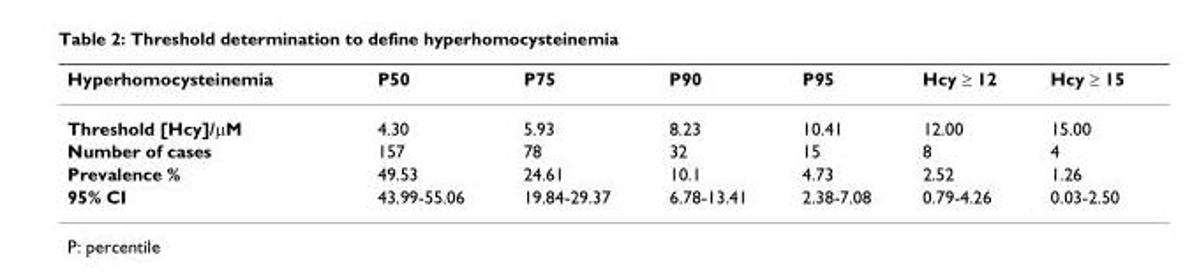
<table><thead><tr><td>Hyperhomocysteinemia</td><td>P50</td><td>P75</td><td>P90</td><td>P95</td><td>Hcy ≥ 12</td><td>Hcy ≥ 15</td></tr></thead><tbody><tr><td>Threshold [Hcy]/μM</td><td>4.30</td><td>5.93</td><td>8.23</td><td>10.41</td><td>12.00</td><td>15.00</td></tr><tr><td>Number of cases</td><td>157</td><td>78</td><td>32</td><td>15</td><td>8</td><td>4</td></tr><tr><td>Prevalence %</td><td>49.53</td><td>24.61</td><td>10.1</td><td>4.73</td><td>2.52</td><td>1.26</td></tr><tr><td>95% CI</td><td>43.99-55.06</td><td>19.84-29.37</td><td>6.78-13.41</td><td>2.38-7.08</td><td>0.79-4.26</td><td>0.03-2.50</td></tr></tbody></table>